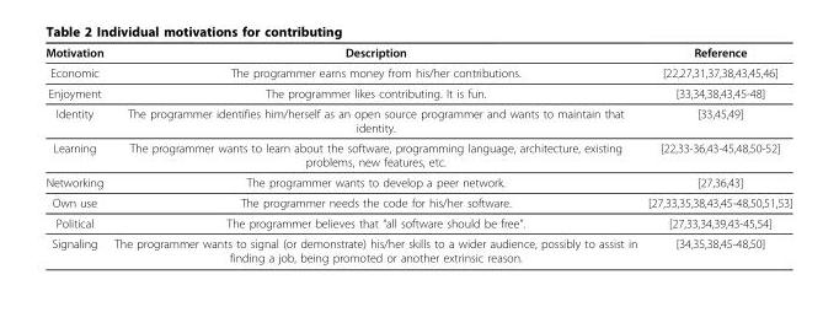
<table><thead><tr><td>Motivation</td><td>Description</td><td>Reference</td></tr></thead><tbody><tr><td>Economic</td><td>The programmer earns money from his/her contributions.</td><td>[22,27,31,37,38,43,45,46]</td></tr><tr><td>Enjoyment</td><td>The programmer likes contributing. It is fun.</td><td>[33,34,38,43,45-48]</td></tr><tr><td>Identity</td><td>The programmer identifies him/herself as an open source programmer and wants to maintain that identity.</td><td>[33,45,49]</td></tr><tr><td>Learning</td><td>The programmer wants to learn about the software, programming language, architecture, existing problems, new features, etc.</td><td>[22,33-36,43-45,48,50-52]</td></tr><tr><td>Networking</td><td>The programmer wants to develop a peer network.</td><td>[27,36,43]</td></tr><tr><td>Own use</td><td>The programmer needs the code for his/her software.</td><td>[27,33,35,38,43,45-48,50,51,53]</td></tr><tr><td>Political</td><td>The programmer believes that “all software should be free”.</td><td>[27,33,34,39,43-45,54]</td></tr><tr><td>Signaling</td><td>The programmer wants to signal (or demonstrate) his/her skills to a wider audience, possibly to assist in finding a job, being promoted or another extrinsic reason.</td><td>[34,35,38,45-48,50]</td></tr></tbody></table>